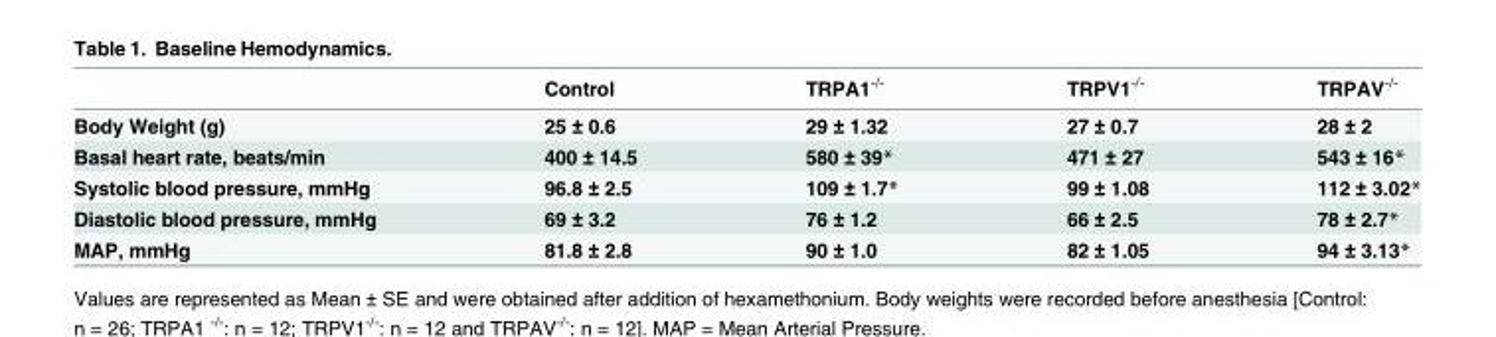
<table><thead><tr><td></td><td>Control</td><td>TRPA1<sup>-/-</sup></td><td>TRPV1<sup>-/-</sup></td><td>TRPAV<sup>-/-</sup></td></tr></thead><tbody><tr><td>Body Weight (g)</td><td>25 ± 0.6</td><td>29 ± 1.32</td><td>27 ± 0.7</td><td>28 ± 2</td></tr><tr><td>Basal heart rate, beats/min</td><td>400 ± 14.5</td><td>580 ± 39*</td><td>471 ± 27</td><td>543 ± 16*</td></tr><tr><td>Systolic blood pressure, mmHg</td><td>96.8 ± 2.5</td><td>109 ± 1.7*</td><td>99 ± 1.08</td><td>112 ± 3.02*</td></tr><tr><td>Diastolic blood pressure, mmHg</td><td>69 ± 3.2</td><td>76 ± 1.2</td><td>66 ± 2.5</td><td>78 ± 2.7*</td></tr><tr><td>MAP, mmHg</td><td>81.8 ± 2.8</td><td>90 ± 1.0</td><td>82 ± 1.05</td><td>94 ± 3.13*</td></tr></tbody></table>